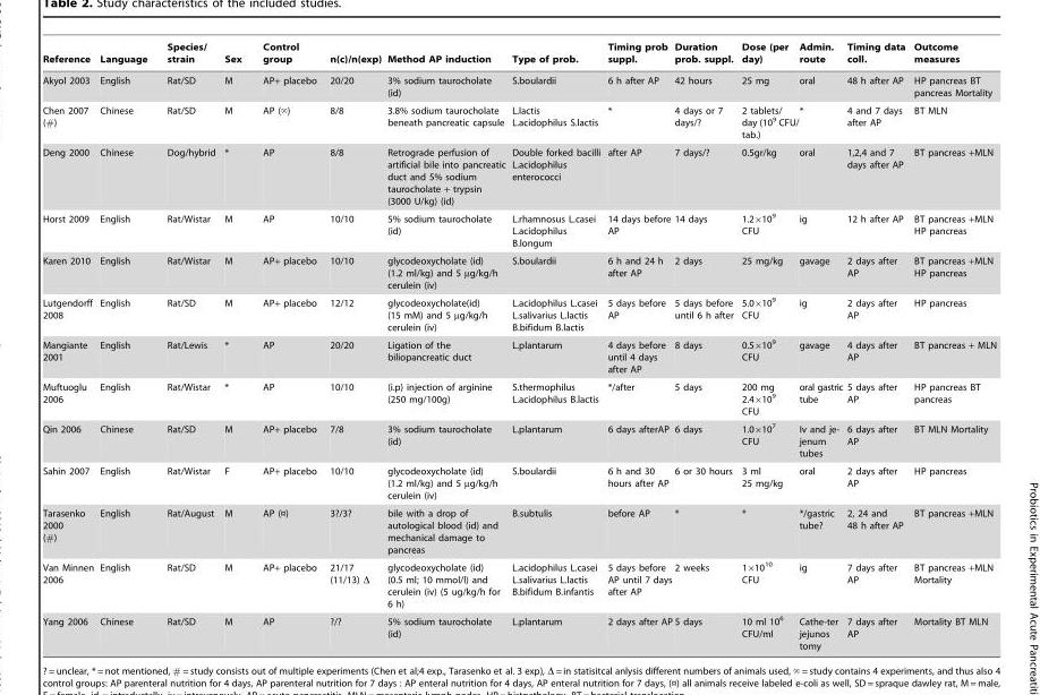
<table><thead><tr><td>Reference</td><td>Language</td><td>Species/ strain</td><td>Sex</td><td>Control group</td><td>n(c)/n(exp)</td><td>Method AP induction</td><td>Type of prob.</td><td>Timing prob suppl.</td><td>Duration prob. suppl.</td><td>Dose (per day)</td><td>Admin. route</td><td>Timing data coll.</td><td>Outcome measures</td></tr></thead><tbody><tr><td>Akyol 2003</td><td>English</td><td>Rat/SD</td><td>M</td><td>AP+ placebo</td><td>20/20</td><td>3% sodium taurocholate (id)</td><td>S.boulardii</td><td>6 h after AP</td><td>42 hours</td><td>25 mg</td><td>oral</td><td>48 h after AP</td><td>HP pancreas BT pancreas Mortality</td></tr><tr><td>Chen 2007 (#)</td><td>Chinese</td><td>Rat/SD</td><td>M</td><td>AP (‘)</td><td>8/8</td><td>3.8% sodium taurocholate beneath pancreatic capsule</td><td>L.lactis L.acidophilus S.lactis</td><td>*</td><td>4 days or 7 days/?</td><td>2 tablets/ day (10<sup>9</sup> CFU/ tab.)</td><td>*</td><td>4 and 7 days after AP</td><td>BT MLN</td></tr><tr><td>Deng 2000</td><td>Chinese</td><td>Dog/hybrid</td><td>*</td><td>AP</td><td>8/8</td><td>Retrograde perfusion of artificial bile into pancreatic duct and 5% sodium taurocholate + trypsin (3000 U/kg) (id)</td><td>Double forked bacilli L.acidophilus enterococci</td><td>after AP</td><td>7 days/?</td><td>0.5gr/kg</td><td>oral</td><td>1,2,4 and 7 days after AP</td><td>BT pancreas +MLN</td></tr><tr><td>Horst 2009</td><td>English</td><td>Rat/Wistar</td><td>M</td><td>AP</td><td>10/10</td><td>5% sodium taurocholate (id)</td><td>L.rhamnosus L.casei L.acidophilus B.longum</td><td>14 days before AP</td><td>14 days</td><td>1.2×10<sup>9</sup> CFU</td><td>ig</td><td>12 h after AP</td><td>BT pancreas +MLN HP pancreas</td></tr><tr><td>Karen 2010</td><td>English</td><td>Rat/Wistar</td><td>M</td><td>AP+ placebo</td><td>10/10</td><td>glycodeoxycholate (id) (1.2 ml/kg) and 5 µg/kg/h cerulein (iv)</td><td>S.boulardii</td><td>6 h and 24 h after AP</td><td>2 days</td><td>25 mg/kg</td><td>gavage</td><td>2 days after AP</td><td>BT pancreas +MLN HP pancreas</td></tr><tr><td>Lutgendorff 2008</td><td>English</td><td>Rat/SD</td><td>M</td><td>AP+ placebo</td><td>12/12</td><td>glycodeoxycholate(id) (15 mM) and 5 µg/kg/h cerulein (iv)</td><td>L.acidophilus L.casei L.salivarius L.lactis B.bifidum B.lactis</td><td>5 days before AP</td><td>5 days before until 6 h after</td><td>5.0×10<sup>9</sup> CFU</td><td>ig</td><td>2 days after AP</td><td>HP pancreas</td></tr><tr><td>Mangiante 2001</td><td>English</td><td>Rat/Lewis</td><td>*</td><td>AP</td><td>20/20</td><td>Ligation of the biliopancreatic duct</td><td>L.plantarum</td><td>4 days before until 4 days after AP</td><td>8 days</td><td>0.5×10<sup>9</sup> CFU</td><td>gavage</td><td>4 days after AP</td><td>BT pancreas + MLN</td></tr><tr><td>Muftuoglu 2006</td><td>English</td><td>Rat/Wistar</td><td>*</td><td>AP</td><td>10/10</td><td>(i.p) injection of arginine (250 mg/100g)</td><td>S.thermophilus L.acidophilus B.lactis</td><td>*/after</td><td>5 days</td><td>200 mg 2.4×10<sup>9</sup> CFU</td><td>oral gastric tube</td><td>5 days after AP</td><td>HP pancreas BT pancreas</td></tr><tr><td>Qin 2006</td><td>Chinese</td><td>Rat/SD</td><td>M</td><td>AP+ placebo</td><td>7/8</td><td>3% sodium taurocholate (id)</td><td>L.plantarum</td><td>6 days afterAP</td><td>6 days</td><td>1.0×10<sup>7</sup> CFU</td><td>Iv and je- jenum tubes</td><td>6 days after AP</td><td>BT MLN Mortality</td></tr><tr><td>Sahin 2007</td><td>English</td><td>Rat/Wistar</td><td>F</td><td>AP+ placebo</td><td>10/10</td><td>glycodeoxycholate (id) (1.2 ml/kg) and 5 µg/kg/h cerulein (iv)</td><td>S.boulardii</td><td>6 h and 30 hours after AP</td><td>6 or 30 hours</td><td>3 ml 25 mg/kg</td><td>oral</td><td>2 days after AP</td><td>HP pancreas</td></tr><tr><td>Tarasenko 2000 (#)</td><td>English</td><td>Rat/August</td><td>M</td><td>AP (¤)</td><td>3?/3?</td><td>bile with a drop of autological blood (id) and mechanical damage to pancreas</td><td>B.subtulis</td><td>before AP</td><td>*</td><td>*</td><td>*/gastric tube?</td><td>2, 24 and 48 h after AP</td><td>BT pancreas +MLN</td></tr><tr><td>Van Minnen 2006</td><td>English</td><td>Rat/SD</td><td>M</td><td>AP+ placebo</td><td>21/17 (11/13) Δ</td><td>glycodeoxycholate (id) (0.5 ml; 10 mmol/l) and cerulein (iv) (5 ug/kg/h for 6 h)</td><td>L.acidophilus L.casei L.salivarius L.lactis B.bifidum B.infantis</td><td>5 days before AP until 7 days after AP</td><td>2 weeks</td><td>1×10<sup>10</sup> CFU</td><td>ig</td><td>7 days after AP</td><td>BT pancreas +MLN Mortality</td></tr><tr><td>Yang 2006</td><td>Chinese</td><td>Rat/SD</td><td>M</td><td>AP</td><td>?/?</td><td>5% sodium taurocholate (id)</td><td>L.plantarum</td><td>2 days after AP</td><td>5 days</td><td>10 ml 10<sup>6</sup> CFU/ml</td><td>Cathe-ter jejunos tomy</td><td>7 days after AP</td><td>Mortality BT MLN</td></tr></tbody></table>